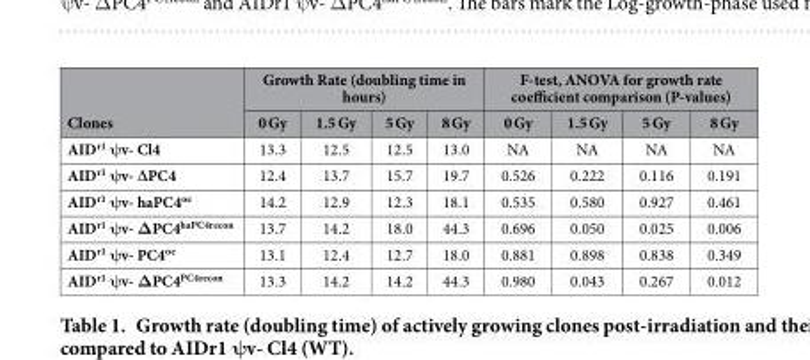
<table><thead><tr><td rowspan="2">Clones</td><td colspan="4">Growth Rate (doubling time in hours)</td><td colspan="4">F-test, ANOVA for growth rate coefficient comparison (P-values)</td></tr><tr><td>0 Gy</td><td>1.5 Gy</td><td>5 Gy</td><td>8 Gy</td><td>0 Gy</td><td>1.5 Gy</td><td>5 Gy</td><td>8 Gy</td></tr></thead><tbody><tr><td>AID<sup>r1</sup> ψv- Cl4</td><td>13.3</td><td>12.5</td><td>12.5</td><td>13.0</td><td>NA</td><td>NA</td><td>NA</td><td>NA</td></tr><tr><td>AID<sup>r1</sup> ψv- ∆PC4</td><td>12.4</td><td>13.7</td><td>15.7</td><td>19.7</td><td>0.526</td><td>0.222</td><td>0.116</td><td>0.191</td></tr><tr><td>AID<sup>r1</sup> ψv- haPC4<sup>oe</sup></td><td>14.2</td><td>12.9</td><td>12.3</td><td>18.1</td><td>0.535</td><td>0.580</td><td>0.927</td><td>0.461</td></tr><tr><td>AID<sup>r1</sup> ψv- ΔPC4<sup>haPC4recon</sup></td><td>13.7</td><td>14.2</td><td>18.0</td><td>44.3</td><td>0.696</td><td>0.050</td><td>0.025</td><td>0.006</td></tr><tr><td>AID<sup>r1</sup> ψv- PC4<sup>oe</sup></td><td>13.1</td><td>12.4</td><td>12.7</td><td>18.0</td><td>0.881</td><td>0.898</td><td>0.838</td><td>0.349</td></tr><tr><td>AID<sup>r1</sup> ψv- ΔPC4<sup>PC4recon</sup></td><td>13.3</td><td>14.2</td><td>14.2</td><td>44.3</td><td>0.980</td><td>0.043</td><td>0.267</td><td>0.012</td></tr></tbody></table>